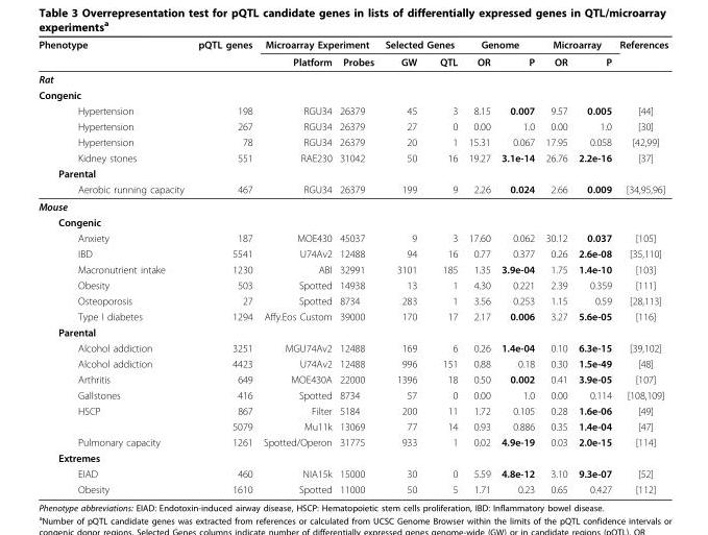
<table><thead><tr><td rowspan="2">Phenotype</td><td rowspan="2">pQTL genes</td><td colspan="2">Microarray Experiment</td><td colspan="2">Selected Genes</td><td colspan="2">Genome</td><td colspan="2">Microarray</td><td rowspan="2">References</td></tr><tr><td>Platform</td><td>Probes</td><td>GW</td><td>QTL</td><td>OR</td><td>P</td><td>OR</td><td>P</td></tr></thead><tbody><tr><td colspan="11">Rat</td></tr><tr><td colspan="11">Congenic</td></tr><tr><td>Hypertension</td><td>198</td><td>RGU34</td><td>26379</td><td>45</td><td>3</td><td>8.15</td><td>0.007</td><td>9.57</td><td>0.005</td><td>[44]</td></tr><tr><td>Hypertension</td><td>267</td><td>RGU34</td><td>26379</td><td>27</td><td>0</td><td>0.00</td><td>1.0</td><td>0.00</td><td>1.0</td><td>[30]</td></tr><tr><td>Hypertension</td><td>78</td><td>RGU34</td><td>26379</td><td>20</td><td>1</td><td>15.31</td><td>0.067</td><td>17.95</td><td>0.058</td><td>[42,99]</td></tr><tr><td>Kidney stones</td><td>551</td><td>RAE230</td><td>31042</td><td>50</td><td>16</td><td>19.27</td><td>3.1e-14</td><td>26.76</td><td>2.2e-16</td><td>[37]</td></tr><tr><td colspan="11">Parental</td></tr><tr><td>Aerobic running capacity</td><td>467</td><td>RGU34</td><td>26379</td><td>199</td><td>9</td><td>2.26</td><td>0.024</td><td>2.66</td><td>0.009</td><td>[34,95,96]</td></tr><tr><td colspan="11">Mouse</td></tr><tr><td colspan="11">Congenic</td></tr><tr><td>Anxiety</td><td>187</td><td>MOE430</td><td>45037</td><td>9</td><td>3</td><td>17.60</td><td>0.062</td><td>30.12</td><td>0.037</td><td>[105]</td></tr><tr><td>IBD</td><td>5541</td><td>U74Av2</td><td>12488</td><td>94</td><td>16</td><td>0.77</td><td>0.377</td><td>0.26</td><td>2.6e-08</td><td>[35,110]</td></tr><tr><td>Macronutrient intake</td><td>1230</td><td>ABI</td><td>32991</td><td>3101</td><td>185</td><td>1.35</td><td>3.9e-04</td><td>1.75</td><td>1.4e-10</td><td>[103]</td></tr><tr><td>Obesity</td><td>503</td><td>Spotted</td><td>14938</td><td>13</td><td>1</td><td>4.30</td><td>0.221</td><td>2.39</td><td>0.359</td><td>[111]</td></tr><tr><td>Osteoporosis</td><td>27</td><td>Spotted</td><td>8734</td><td>283</td><td>1</td><td>3.56</td><td>0.253</td><td>1.15</td><td>0.59</td><td>[28,113]</td></tr><tr><td>Type I diabetes</td><td>1294</td><td>Affy.Eos Custom</td><td>39000</td><td>170</td><td>17</td><td>2.17</td><td>0.006</td><td>3.27</td><td>5.6e-05</td><td>[116]</td></tr><tr><td colspan="11">Parental</td></tr><tr><td>Alcohol addiction</td><td>3251</td><td>MGU74Av2</td><td>12488</td><td>169</td><td>6</td><td>0.26</td><td>1.4e-04</td><td>0.10</td><td>6.3e-15</td><td>[39,102]</td></tr><tr><td>Alcohol addiction</td><td>4423</td><td>U74Av2</td><td>12488</td><td>996</td><td>151</td><td>0.88</td><td>0.18</td><td>0.30</td><td>1.5e-49</td><td>[48]</td></tr><tr><td>Arthritis</td><td>649</td><td>MOE430A</td><td>22000</td><td>1396</td><td>18</td><td>0.50</td><td>0.002</td><td>0.41</td><td>3.9e-05</td><td>[107]</td></tr><tr><td>Gallstones</td><td>416</td><td>Spotted</td><td>8734</td><td>57</td><td>0</td><td>0.00</td><td>1.0</td><td>0.00</td><td>0.114</td><td>[108,109]</td></tr><tr><td rowspan="2">HSCP</td><td>867</td><td>Filter</td><td>5184</td><td>200</td><td>11</td><td>1.72</td><td>0.105</td><td>0.28</td><td>1.6e-06</td><td>[49]</td></tr><tr><td>5079</td><td>Mu11k</td><td>13069</td><td>77</td><td>14</td><td>0.93</td><td>0.886</td><td>0.35</td><td>1.4e-04</td><td>[47]</td></tr><tr><td>Pulmonary capacity</td><td>1261</td><td>Spotted/Operon</td><td>31775</td><td>933</td><td>1</td><td>0.02</td><td>4.9e-19</td><td>0.03</td><td>2.0e-15</td><td>[114]</td></tr><tr><td colspan="11">Extremes</td></tr><tr><td>EIAD</td><td>460</td><td>NIA15k</td><td>15000</td><td>30</td><td>0</td><td>5.59</td><td>4.8e-12</td><td>3.10</td><td>9.3e-07</td><td>[52]</td></tr><tr><td>Obesity</td><td>1610</td><td>Spotted</td><td>11000</td><td>50</td><td>5</td><td>1.71</td><td>0.23</td><td>0.65</td><td>0.427</td><td>[112]</td></tr></tbody></table>